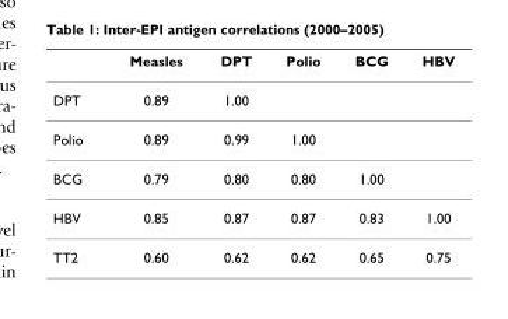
<table><thead><tr><td></td><td>Measles</td><td>DPT</td><td>Polio</td><td>BCG</td><td>HBV</td></tr></thead><tbody><tr><td>DPT</td><td>0.89</td><td>1.00</td><td></td><td></td><td></td></tr><tr><td>Polio</td><td>0.89</td><td>0.99</td><td>1.00</td><td></td><td></td></tr><tr><td>BCG</td><td>0.79</td><td>0.80</td><td>0.80</td><td>1.00</td><td></td></tr><tr><td>HBV</td><td>0.85</td><td>0.87</td><td>0.87</td><td>0.83</td><td>1.00</td></tr><tr><td>TT2</td><td>0.60</td><td>0.62</td><td>0.62</td><td>0.65</td><td>0.75</td></tr></tbody></table>